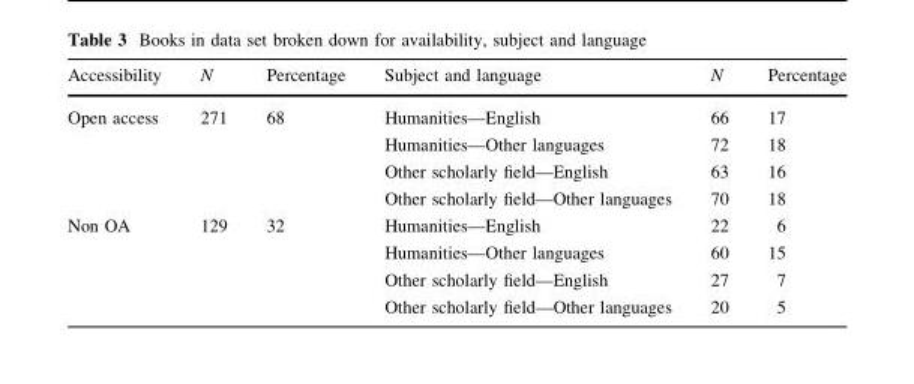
<table><thead><tr><td>Accessibility</td><td>N</td><td>Percentage</td><td>Subject and language</td><td>N</td><td>Percentage</td></tr></thead><tbody><tr><td rowspan="4">Open access</td><td rowspan="4">271</td><td rowspan="4">68</td><td>Humanities—English</td><td>66</td><td>17</td></tr><tr><td>Humanities—Other languages</td><td>72</td><td>18</td></tr><tr><td>Other scholarly field—English</td><td>63</td><td>16</td></tr><tr><td>Other scholarly field—Other languages</td><td>70</td><td>18</td></tr><tr><td rowspan="4">Non OA</td><td rowspan="4">129</td><td rowspan="4">32</td><td>Humanities—English</td><td>22</td><td>6</td></tr><tr><td>Humanities—Other languages</td><td>60</td><td>15</td></tr><tr><td>Other scholarly field—English</td><td>27</td><td>7</td></tr><tr><td>Other scholarly field—Other languages</td><td>20</td><td>5</td></tr></tbody></table>